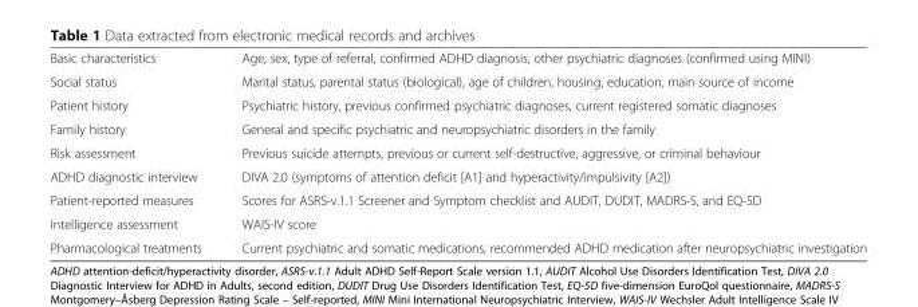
<table><tbody><tr><td>Basic characteristics</td><td>Age, sex, type of referral, confirmed ADHD diagnosis, other psychiatric diagnoses (confirmed using MINI)</td></tr><tr><td>Social status</td><td>Marital status, parental status (biological), age of children, housing, education, main source of income</td></tr><tr><td>Patient history</td><td>Psychiatric history, previous confirmed psychiatric diagnoses, current registered somatic diagnoses</td></tr><tr><td>Family history</td><td>General and specific psychiatric and neuropsychiatric disorders in the family</td></tr><tr><td>Risk assessment</td><td>Previous suicide attempts, previous or current self-destructive, aggressive, or criminal behaviour</td></tr><tr><td>ADHD diagnostic interview</td><td>DIVA 2.0 (symptoms of attention deficit [A1] and hyperactivity/impulsivity [A2])</td></tr><tr><td>Patient-reported measures</td><td>Scores for ASRS-v.1.1 Screener and Symptom checklist and AUDIT, DUDIT, MADRS-S, and EQ-5D</td></tr><tr><td>Intelligence assessment</td><td>WAIS-IV score</td></tr><tr><td>Pharmacological treatments</td><td>Current psychiatric and somatic medications, recommended ADHD medication after neuropsychiatric investigation</td></tr></tbody></table>